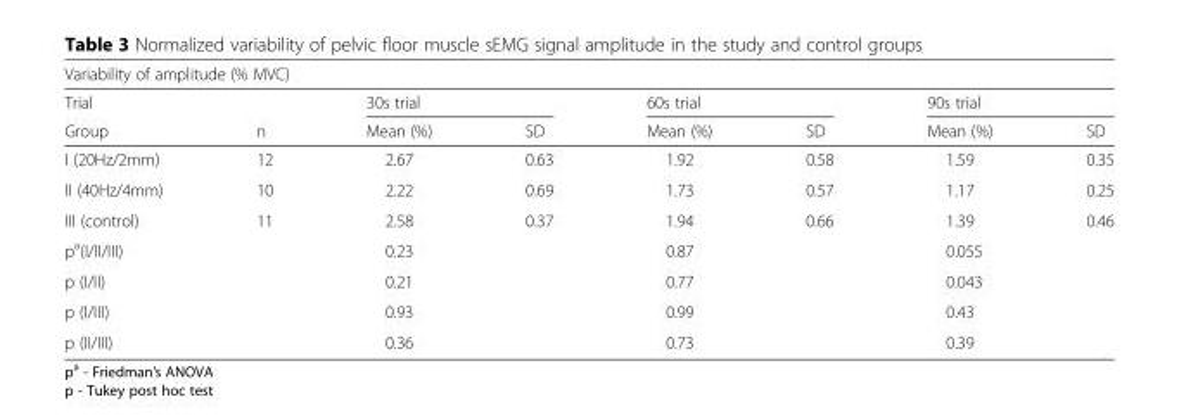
<table><thead><tr><td colspan="8">Variability of amplitude (% MVC)</td></tr><tr><td rowspan="2">Trial Group</td><td rowspan="2">n</td><td colspan="2">30s trial</td><td colspan="2">60s trial</td><td colspan="2">90s trial</td></tr><tr><td>Mean (%)</td><td>SD</td><td>Mean (%)</td><td>SD</td><td>Mean (%)</td><td>SD</td></tr></thead><tbody><tr><td>I (20Hz/2mm)</td><td>12</td><td>2.67</td><td>0.63</td><td>1.92</td><td>0.58</td><td>1.59</td><td>0.35</td></tr><tr><td>II (40Hz/4mm)</td><td>10</td><td>2.22</td><td>0.69</td><td>1.73</td><td>0.57</td><td>1.17</td><td>0.25</td></tr><tr><td>III (control)</td><td>11</td><td>2.58</td><td>0.37</td><td>1.94</td><td>0.66</td><td>1.39</td><td>0.46</td></tr><tr><td>p<sup>a</sup>(I/II/III)</td><td></td><td colspan="2">0.23</td><td colspan="2">0.87</td><td colspan="2">0.055</td></tr><tr><td>p (I/II)</td><td></td><td colspan="2">0.21</td><td colspan="2">0.77</td><td colspan="2">0.043</td></tr><tr><td>p (I/III)</td><td></td><td colspan="2">0.93</td><td colspan="2">0.99</td><td colspan="2">0.43</td></tr><tr><td>p (II/III)</td><td></td><td colspan="2">0.36</td><td colspan="2">0.73</td><td colspan="2">0.39</td></tr></tbody></table>